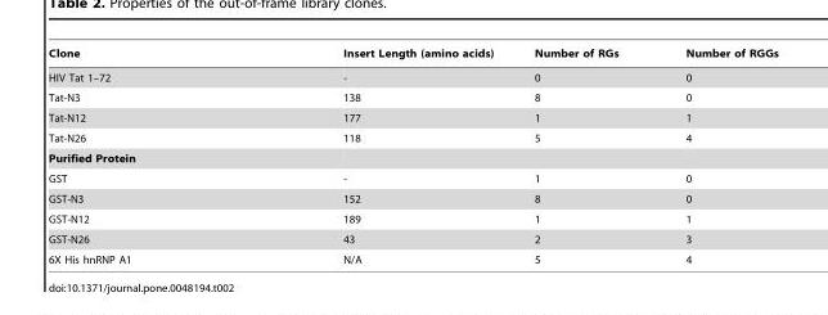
<table><thead><tr><td>Clone</td><td>Insert Length (amino acids)</td><td>Number of RGs</td><td>Number of RGGs</td></tr></thead><tbody><tr><td>HIV Tat 1–72</td><td>-</td><td>0</td><td>0</td></tr><tr><td>Tat-N3</td><td>138</td><td>8</td><td>0</td></tr><tr><td>Tat-N12</td><td>177</td><td>1</td><td>1</td></tr><tr><td>Tat-N26</td><td>118</td><td>5</td><td>4</td></tr><tr><td colspan="4">Purified Protein</td></tr><tr><td>GST</td><td>-</td><td>1</td><td>0</td></tr><tr><td>GST-N3</td><td>152</td><td>8</td><td>0</td></tr><tr><td>GST-N12</td><td>189</td><td>1</td><td>1</td></tr><tr><td>GST-N26</td><td>43</td><td>2</td><td>3</td></tr><tr><td>6X His hnRNP A1</td><td>N/A</td><td>5</td><td>4</td></tr></tbody></table>